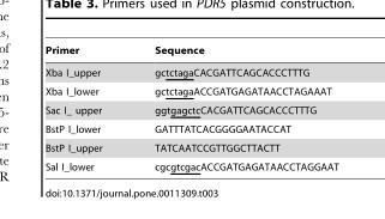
<table><thead><tr><td>Primer</td><td>Sequence</td></tr></thead><tbody><tr><td>Xba I_upper</td><td>gctctagaCACGATTCAGCACCCTTTG</td></tr><tr><td>Xba I_lower</td><td>gctctagaACCGATGAGATAACCTAGAAAT</td></tr><tr><td>Sac I_ upper</td><td>ggtgagctcCACGATTCAGCACCCTTTG</td></tr><tr><td>BstP I_lower</td><td>GATTTATCACGGGGAATACCAT</td></tr><tr><td>BstP I_upper</td><td>TATCAATCCGTTGGCTTACTT</td></tr><tr><td>Sal I_lower</td><td>cgcgtcgacACCGATGAGATAACCTAGGAAT</td></tr></tbody></table>